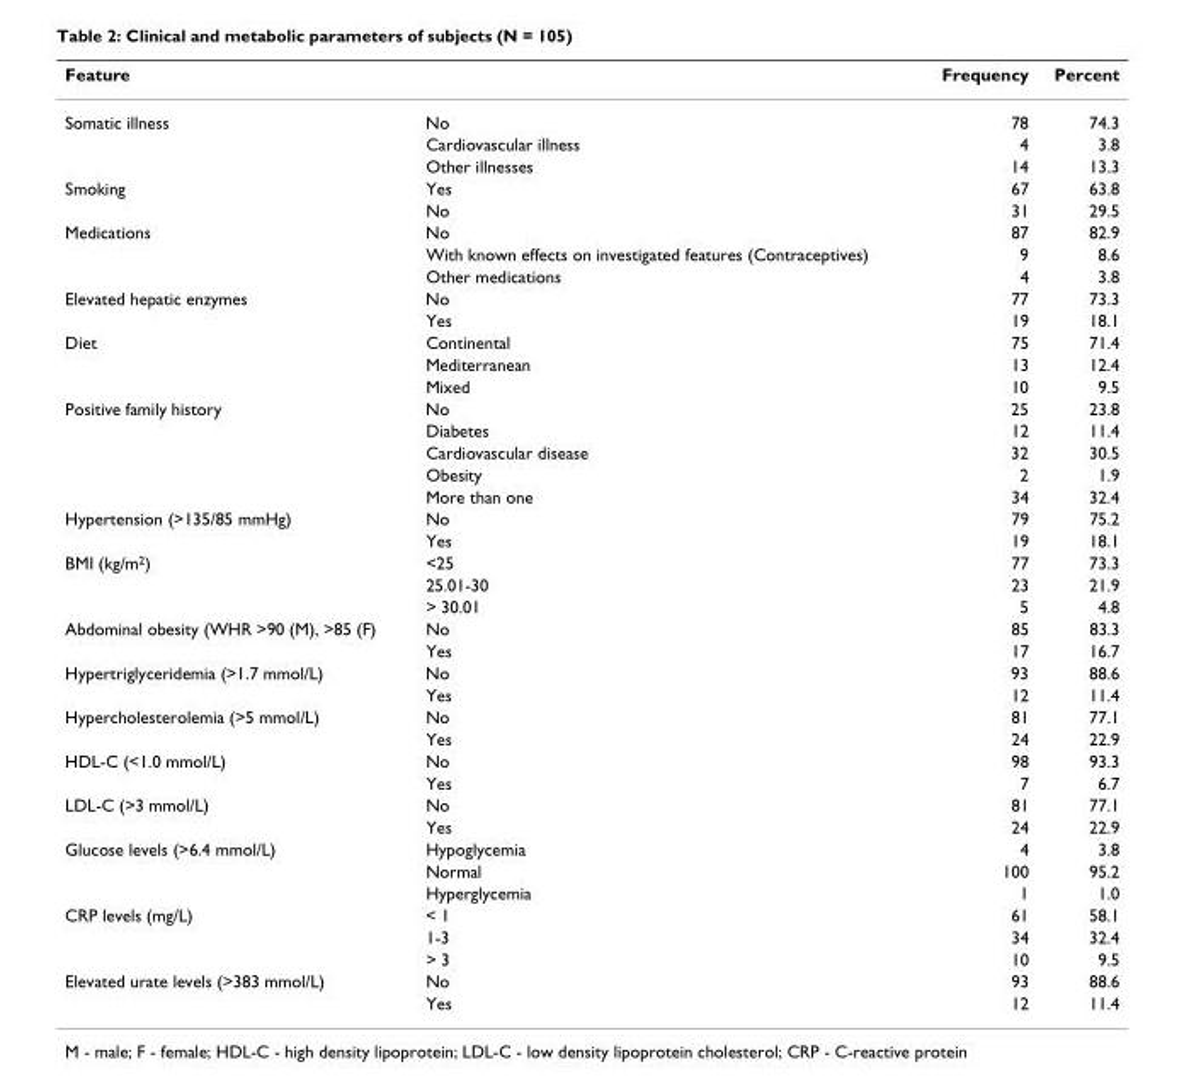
<table><thead><tr><td>Feature</td><td></td><td>Frequency</td><td>Percent</td></tr></thead><tbody><tr><td rowspan="3">Somatic illness</td><td>No</td><td>78</td><td>74.3</td></tr><tr><td>Cardiovascular illness</td><td>4</td><td>3.8</td></tr><tr><td>Other illnesses</td><td>14</td><td>13.3</td></tr><tr><td rowspan="2">Smoking</td><td>Yes</td><td>67</td><td>63.8</td></tr><tr><td>No</td><td>31</td><td>29.5</td></tr><tr><td rowspan="3">Medications</td><td>No</td><td>87</td><td>82.9</td></tr><tr><td>With known effects on investigated features (Contraceptives)</td><td>9</td><td>8.6</td></tr><tr><td>Other medications</td><td>4</td><td>3.8</td></tr><tr><td rowspan="2">Elevated hepatic enzymes</td><td>No</td><td>77</td><td>73.3</td></tr><tr><td>Yes</td><td>19</td><td>18.1</td></tr><tr><td rowspan="3">Diet</td><td>Continental</td><td>75</td><td>71.4</td></tr><tr><td>Mediterranean</td><td>13</td><td>12.4</td></tr><tr><td>Mixed</td><td>10</td><td>9.5</td></tr><tr><td rowspan="5">Positive family history</td><td>No</td><td>25</td><td>23.8</td></tr><tr><td>Diabetes</td><td>12</td><td>11.4</td></tr><tr><td>Cardiovascular disease</td><td>32</td><td>30.5</td></tr><tr><td>Obesity</td><td>2</td><td>1.9</td></tr><tr><td>More than one</td><td>34</td><td>32.4</td></tr><tr><td rowspan="2">Hypertension (&gt;135/85 mmHg)</td><td>No</td><td>79</td><td>75.2</td></tr><tr><td>Yes</td><td>19</td><td>18.1</td></tr><tr><td rowspan="3">BMI (kg/m<sup>2</sup>)</td><td>&lt;25</td><td>77</td><td>73.3</td></tr><tr><td>25.01-30</td><td>23</td><td>21.9</td></tr><tr><td>&gt; 30.01</td><td>5</td><td>4.8</td></tr><tr><td rowspan="2">Abdominal obesity (WHR &gt;90 (M), &gt;85 (F)</td><td>No</td><td>85</td><td>83.3</td></tr><tr><td>Yes</td><td>17</td><td>16.7</td></tr><tr><td rowspan="2">Hypertriglyceridemia (&gt;1.7 mmol/L)</td><td>No</td><td>93</td><td>88.6</td></tr><tr><td>Yes</td><td>12</td><td>11.4</td></tr><tr><td rowspan="2">Hypercholesterolemia (&gt;5 mmol/L)</td><td>No</td><td>81</td><td>77.1</td></tr><tr><td>Yes</td><td>24</td><td>22.9</td></tr><tr><td rowspan="2">HDL-C (&lt;1.0 mmol/L)</td><td>No</td><td>98</td><td>93.3</td></tr><tr><td>Yes</td><td>7</td><td>6.7</td></tr><tr><td rowspan="2">LDL-C (&gt;3 mmol/L)</td><td>No</td><td>81</td><td>77.1</td></tr><tr><td>Yes</td><td>24</td><td>22.9</td></tr><tr><td rowspan="3">Glucose levels (&gt;6.4 mmol/L)</td><td>Hypoglycemia</td><td>4</td><td>3.8</td></tr><tr><td>Normal</td><td>100</td><td>95.2</td></tr><tr><td>Hyperglycemia</td><td>1</td><td>1.0</td></tr><tr><td rowspan="3">CRP levels (mg/L)</td><td>&lt; 1</td><td>61</td><td>58.1</td></tr><tr><td>1-3</td><td>34</td><td>32.4</td></tr><tr><td>&gt; 3</td><td>10</td><td>9.5</td></tr><tr><td rowspan="2">Elevated urate levels (&gt;383 mmol/L)</td><td>No</td><td>93</td><td>88.6</td></tr><tr><td>Yes</td><td>12</td><td>11.4</td></tr></tbody></table>